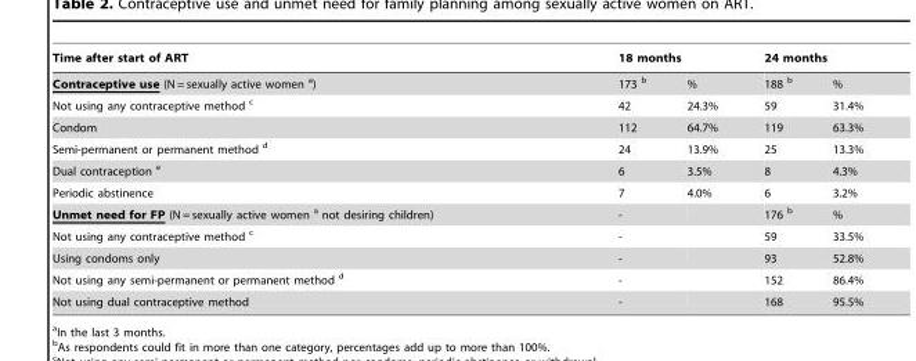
<table><thead><tr><td rowspan="2">Time after start of ART Contraceptive use (N = sexually active women a)</td><td colspan="2">18 months</td><td colspan="2">24 months</td></tr><tr><td>173 b</td><td>%</td><td>188 b</td><td>%</td></tr></thead><tbody><tr><td>Not using any contraceptive method c</td><td>42</td><td>24.3%</td><td>59</td><td>31.4%</td></tr><tr><td>Condom</td><td>112</td><td>64.7%</td><td>119</td><td>63.3%</td></tr><tr><td>Semi-permanent or permanent method d</td><td>24</td><td>13.9%</td><td>25</td><td>13.3%</td></tr><tr><td>Dual contraception e</td><td>6</td><td>3.5%</td><td>8</td><td>4.3%</td></tr><tr><td>Periodic abstinence</td><td>7</td><td>4.0%</td><td>6</td><td>3.2%</td></tr><tr><td>Unmet need for FP (N = sexually active women a not desiring children)</td><td>-</td><td></td><td>176 b</td><td>%</td></tr><tr><td>Not using any contraceptive method c</td><td>-</td><td></td><td>59</td><td>33.5%</td></tr><tr><td>Using condoms only</td><td>-</td><td></td><td>93</td><td>52.8%</td></tr><tr><td>Not using any semi-permanent or permanent method d</td><td>-</td><td></td><td>152</td><td>86.4%</td></tr><tr><td>Not using dual contraceptive method</td><td>-</td><td></td><td>168</td><td>95.5%</td></tr></tbody></table>